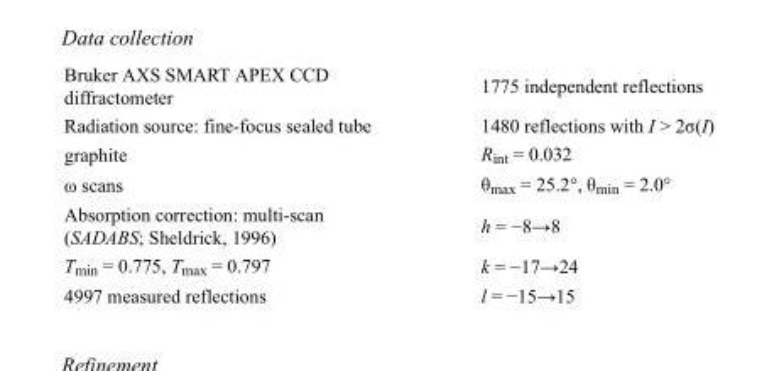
<table><tbody><tr><td>Bruker AXS SMART APEX CCD diffractometer</td><td>1775 independent reflections</td></tr><tr><td>Radiation source: fine-focus sealed tube</td><td>1480 reflections with I &gt; 2σ(I)</td></tr><tr><td>graphite</td><td>R<sub>int</sub> = 0.032</td></tr><tr><td>ω scans</td><td>θ<sub>max</sub> = 25.2°, θ<sub>min</sub> = 2.0°</td></tr><tr><td>Absorption correction: multi-scan (SADABS; Sheldrick, 1996)</td><td>h = −8→8</td></tr><tr><td>T<sub>min</sub> = 0.775, T<sub>max</sub> = 0.797</td><td>k = −17→24</td></tr><tr><td>4997 measured reflections</td><td>l = −15→15</td></tr></tbody></table>